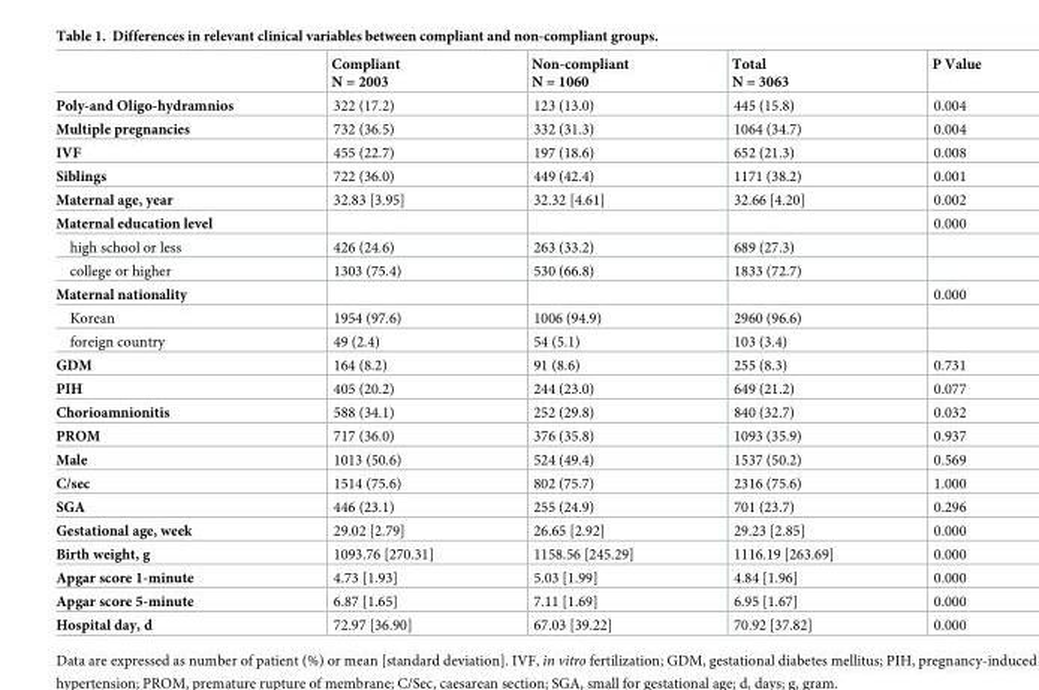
<table><thead><tr><td></td><td>Compliant N = 2003</td><td>Non-compliant N = 1060</td><td>Total N = 3063</td><td>P Value</td></tr></thead><tbody><tr><td>Poly-and Oligo-hydramnios</td><td>322 (17.2)</td><td>123 (13.0)</td><td>445 (15.8)</td><td>0.004</td></tr><tr><td>Multiple pregnancies</td><td>732 (36.5)</td><td>332 (31.3)</td><td>1064 (34.7)</td><td>0.004</td></tr><tr><td>IVF</td><td>455 (22.7)</td><td>197 (18.6)</td><td>652 (21.3)</td><td>0.008</td></tr><tr><td>Siblings</td><td>722 (36.0)</td><td>449 (42.4)</td><td>1171 (38.2)</td><td>0.001</td></tr><tr><td>Maternal age, year</td><td>32.83 [3.95]</td><td>32.32 [4.61]</td><td>32.66 [4.20]</td><td>0.002</td></tr><tr><td>Maternal education level</td><td></td><td></td><td></td><td>0.000</td></tr><tr><td>high school or less</td><td>426 (24.6)</td><td>263 (33.2)</td><td>689 (27.3)</td><td></td></tr><tr><td>college or higher</td><td>1303 (75.4)</td><td>530 (66.8)</td><td>1833 (72.7)</td><td></td></tr><tr><td>Maternal nationality</td><td></td><td></td><td></td><td>0.000</td></tr><tr><td>Korean</td><td>1954 (97.6)</td><td>1006 (94.9)</td><td>2960 (96.6)</td><td></td></tr><tr><td>foreign country</td><td>49 (2.4)</td><td>54 (5.1)</td><td>103 (3.4)</td><td></td></tr><tr><td>GDM</td><td>164 (8.2)</td><td>91 (8.6)</td><td>255 (8.3)</td><td>0.731</td></tr><tr><td>PIH</td><td>405 (20.2)</td><td>244 (23.0)</td><td>649 (21.2)</td><td>0.077</td></tr><tr><td>Chorioamnionitis</td><td>588 (34.1)</td><td>252 (29.8)</td><td>840 (32.7)</td><td>0.032</td></tr><tr><td>PROM</td><td>717 (36.0)</td><td>376 (35.8)</td><td>1093 (35.9)</td><td>0.937</td></tr><tr><td>Male</td><td>1013 (50.6)</td><td>524 (49.4)</td><td>1537 (50.2)</td><td>0.569</td></tr><tr><td>C/sec</td><td>1514 (75.6)</td><td>802 (75.7)</td><td>2316 (75.6)</td><td>1.000</td></tr><tr><td>SGA</td><td>446 (23.1)</td><td>255 (24.9)</td><td>701 (23.7)</td><td>0.296</td></tr><tr><td>Gestational age, week</td><td>29.02 [2.79]</td><td>26.65 [2.92]</td><td>29.23 [2.85]</td><td>0.000</td></tr><tr><td>Birth weight, g</td><td>1093.76 [270.31]</td><td>1158.56 [245.29]</td><td>1116.19 [263.69]</td><td>0.000</td></tr><tr><td>Apgar score 1-minute</td><td>4.73 [1.93]</td><td>5.03 [1.99]</td><td>4.84 [1.96]</td><td>0.000</td></tr><tr><td>Apgar score 5-minute</td><td>6.87 [1.65]</td><td>7.11 [1.69]</td><td>6.95 [1.67]</td><td>0.000</td></tr><tr><td>Hospital day, d</td><td>72.97 [36.90]</td><td>67.03 [39.22]</td><td>70.92 [37.82]</td><td>0.000</td></tr></tbody></table>